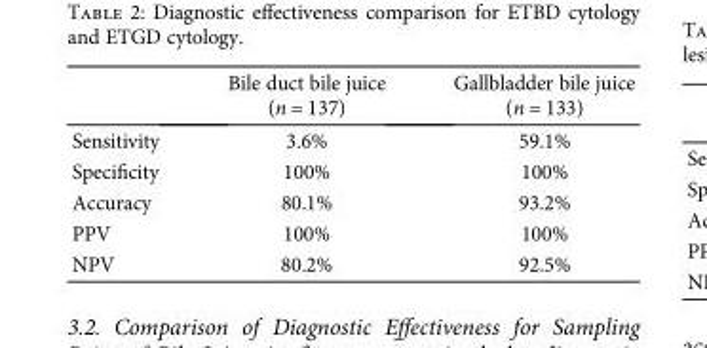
<table><thead><tr><td></td><td>Bile duct bile juice (n = 137)</td><td>Gallbladder bile juice (n = 133)</td></tr></thead><tbody><tr><td>Sensitivity</td><td>3.6%</td><td>59.1%</td></tr><tr><td>Specificity</td><td>100%</td><td>100%</td></tr><tr><td>Accuracy</td><td>80.1%</td><td>93.2%</td></tr><tr><td>PPV</td><td>100%</td><td>100%</td></tr><tr><td>NPV</td><td>80.2%</td><td>92.5%</td></tr></tbody></table>